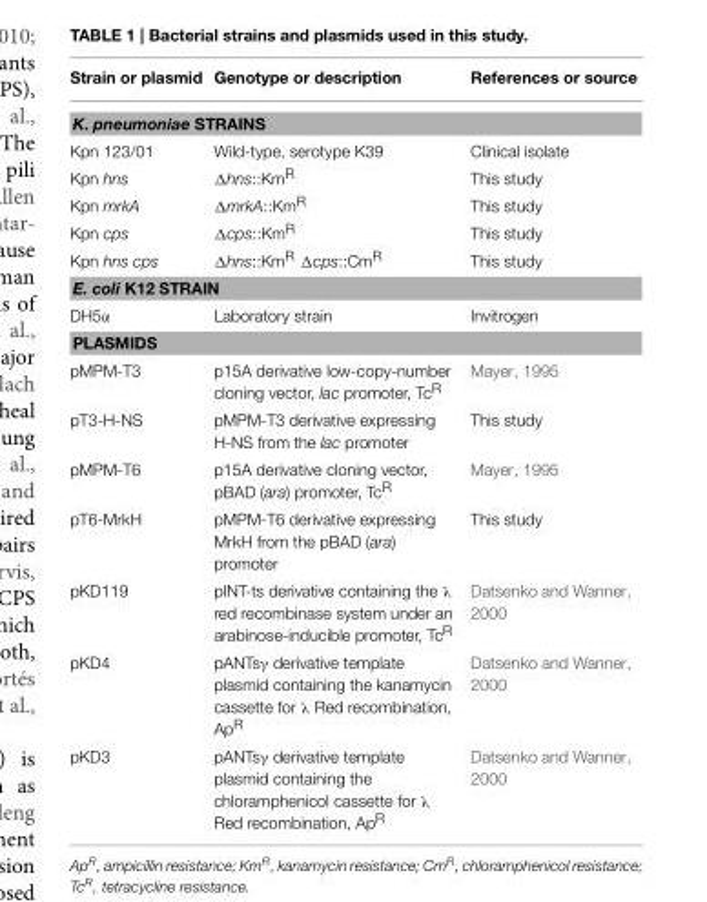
<table><thead><tr><td>Strain or plasmid</td><td>Genotype or description</td><td>References or source</td></tr></thead><tbody><tr><td colspan="3">K. pneumoniae STRAINS</td></tr><tr><td>Kpn 123/01</td><td>Wild-type, serotype K39</td><td>Clinical isolate</td></tr><tr><td>Kpn hns</td><td>Δhns::Km<sup>R</sup></td><td>This study</td></tr><tr><td>Kpn mrkA</td><td>ΔmrkA::Km<sup>R</sup></td><td>This study</td></tr><tr><td>Kpn cps</td><td>Δcps::Km<sup>R</sup></td><td>This study</td></tr><tr><td>Kpn hns cps</td><td>Δhns::Km<sup>R</sup> Δcps::Cm<sup>R</sup></td><td>This study</td></tr><tr><td colspan="3">E. coli K12 STRAIN</td></tr><tr><td>DH5α</td><td>Laboratory strain</td><td>Invitrogen</td></tr><tr><td colspan="3">PLASMIDS</td></tr><tr><td>pMPM-T3</td><td>p15A derivative low-copy-number cloning vector, lac promoter, Tc<sup>R</sup></td><td>Mayer, 1995</td></tr><tr><td>pT3-H-NS</td><td>pMPM-T3 derivative expressing H-NS from the lac promoter</td><td>This study</td></tr><tr><td>pMPM-T6</td><td>p15A derivative cloning vector, pBAD (ara) promoter, Tc<sup>R</sup></td><td>Mayer, 1995</td></tr><tr><td>pT6-MrkH</td><td>pMPM-T6 derivative expressing MrkH from the pBAD (ara) promoter</td><td>This study</td></tr><tr><td>pKD119</td><td>pINT-ts derivative containing the λ red recombinase system under an arabinose-inducible promoter, Tc<sup>R</sup></td><td>Datsenko and Wanner, 2000</td></tr><tr><td>pKD4</td><td>pANTsγ derivative template plasmid containing the kanamycin cassette for λ Red recombination, Ap<sup>R</sup></td><td>Datsenko and Wanner, 2000</td></tr><tr><td>pKD3</td><td>pANTsγ derivative template plasmid containing the chloramphenicol cassette for λ Red recombination, Ap<sup>R</sup></td><td>Datsenko and Wanner, 2000</td></tr></tbody></table>